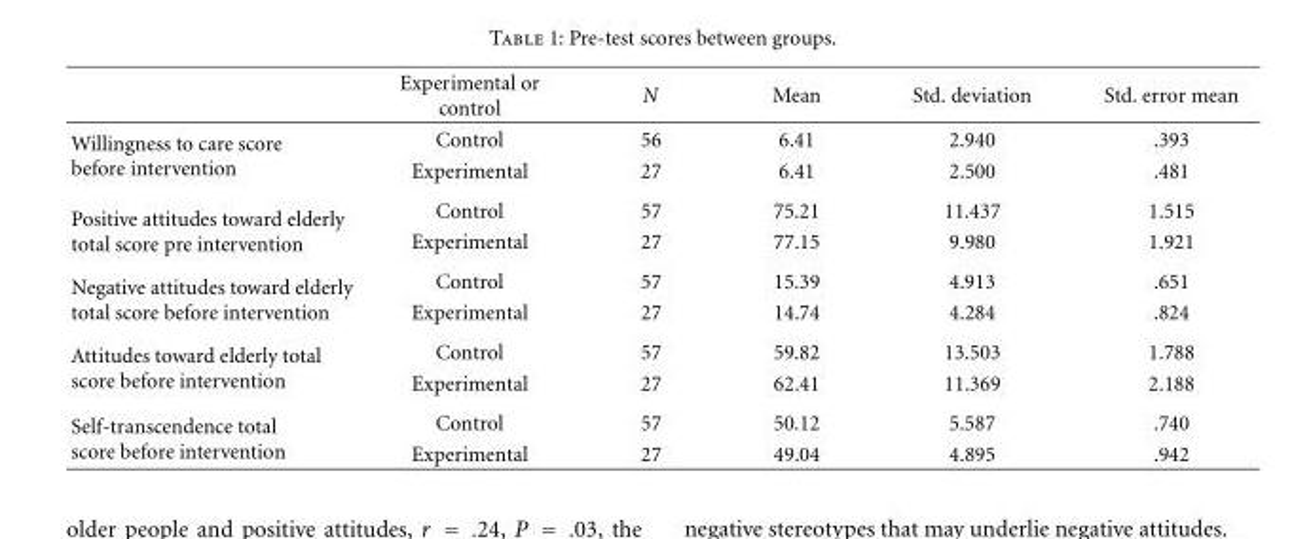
<table><thead><tr><td></td><td>Experimental or control</td><td>N</td><td>Mean</td><td>Std. deviation</td><td>Std. error mean</td></tr></thead><tbody><tr><td rowspan="2">Willingness to care score before intervention</td><td>Control</td><td>56</td><td>6.41</td><td>2.940</td><td>.393</td></tr><tr><td>Experimental</td><td>27</td><td>6.41</td><td>2.500</td><td>.481</td></tr><tr><td rowspan="2">Positive attitudes toward elderly total score pre intervention</td><td>Control</td><td>57</td><td>75.21</td><td>11.437</td><td>1.515</td></tr><tr><td>Experimental</td><td>27</td><td>77.15</td><td>9.980</td><td>1.921</td></tr><tr><td rowspan="2">Negative attitudes toward elderly total score before intervention</td><td>Control</td><td>57</td><td>15.39</td><td>4.913</td><td>.651</td></tr><tr><td>Experimental</td><td>27</td><td>14.74</td><td>4.284</td><td>.824</td></tr><tr><td rowspan="2">Attitudes toward elderly total score before intervention</td><td>Control</td><td>57</td><td>59.82</td><td>13.503</td><td>1.788</td></tr><tr><td>Experimental</td><td>27</td><td>62.41</td><td>11.369</td><td>2.188</td></tr><tr><td rowspan="2">Self-transcendence total score before intervention</td><td>Control</td><td>57</td><td>50.12</td><td>5.587</td><td>.740</td></tr><tr><td>Experimental</td><td>27</td><td>49.04</td><td>4.895</td><td>.942</td></tr></tbody></table>